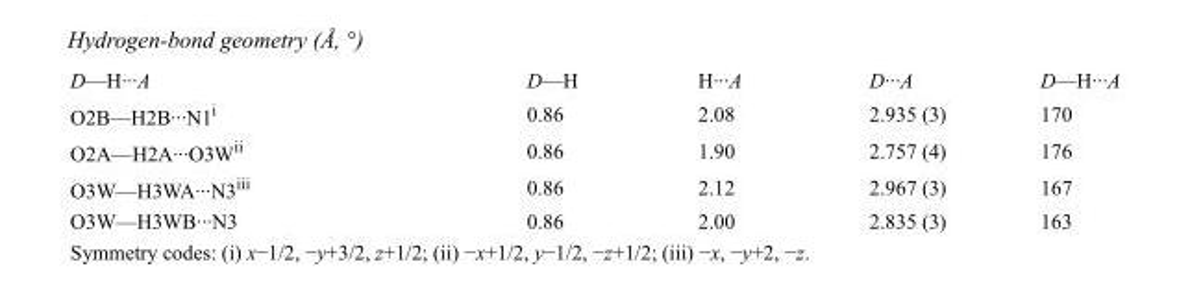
<table><tbody><tr><td>D—H···A</td><td>D—H</td><td>H···A</td><td>D···A</td><td>D—H···A</td></tr><tr><td>O2B—H2B···N1<sup>i</sup></td><td>0.86</td><td>2.08</td><td>2.935 (3)</td><td>170</td></tr><tr><td>O2A—H2A···O3W<sup>ii</sup></td><td>0.86</td><td>1.90</td><td>2.757 (4)</td><td>176</td></tr><tr><td>O3W—H3WA···N3<sup>iii</sup></td><td>0.86</td><td>2.12</td><td>2.967 (3)</td><td>167</td></tr><tr><td>O3W—H3WB···N3</td><td>0.86</td><td>2.00</td><td>2.835 (3)</td><td>163</td></tr></tbody></table>